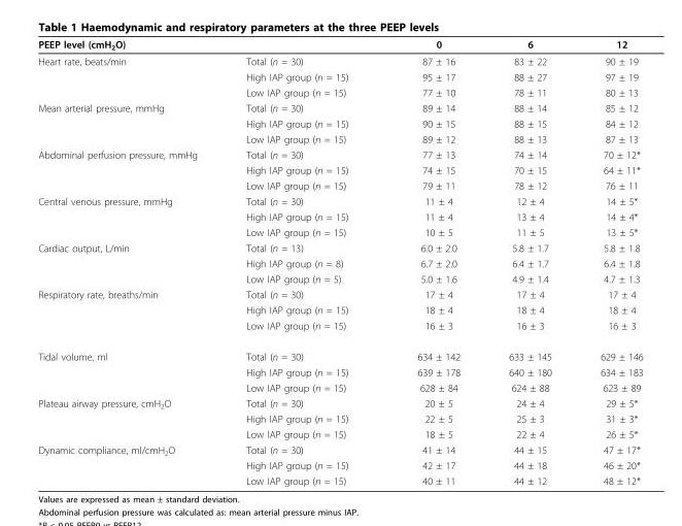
<table><thead><tr><td>PEEP level (cmH<sub>2</sub>O)</td><td></td><td>0</td><td>6</td><td>12</td></tr></thead><tbody><tr><td rowspan="3">Heart rate, beats/min</td><td>Total (n = 30)</td><td>87 ± 16</td><td>83 ± 22</td><td>90 ± 19</td></tr><tr><td>High IAP group (n = 15)</td><td>95 ± 17</td><td>88 ± 27</td><td>97 ± 19</td></tr><tr><td>Low IAP group (n = 15)</td><td>77 ± 10</td><td>78 ± 11</td><td>80 ± 13</td></tr><tr><td rowspan="3">Mean arterial pressure, mmHg</td><td>Total (n = 30)</td><td>89 ± 14</td><td>88 ± 14</td><td>85 ± 12</td></tr><tr><td>High IAP group (n = 15)</td><td>90 ± 15</td><td>88 ± 15</td><td>84 ± 12</td></tr><tr><td>Low IAP group (n = 15)</td><td>89 ± 12</td><td>88 ± 13</td><td>87 ± 13</td></tr><tr><td rowspan="3">Abdominal perfusion pressure, mmHg</td><td>Total (n = 30)</td><td>77 ± 13</td><td>74 ± 14</td><td>70 ± 12*</td></tr><tr><td>High IAP group (n = 15)</td><td>74 ± 15</td><td>70 ± 15</td><td>64 ± 11*</td></tr><tr><td>Low IAP group (n = 15)</td><td>79 ± 11</td><td>78 ± 12</td><td>76 ± 11</td></tr><tr><td rowspan="3">Central venous pressure, mmHg</td><td>Total (n = 30)</td><td>11 ± 4</td><td>12 ± 4</td><td>14 ± 5*</td></tr><tr><td>High IAP group (n = 15)</td><td>11 ± 4</td><td>13 ± 4</td><td>14 ± 4*</td></tr><tr><td>Low IAP group (n = 15)</td><td>10 ± 5</td><td>11 ± 5</td><td>13 ± 5*</td></tr><tr><td rowspan="3">Cardiac output, L/min</td><td>Total (n = 13)</td><td>6.0 ± 2.0</td><td>5.8 ± 1.7</td><td>5.8 ± 1.8</td></tr><tr><td>High IAP group (n = 8)</td><td>6.7 ± 2.0</td><td>6.4 ± 1.7</td><td>6.4 ± 1.8</td></tr><tr><td>Low IAP group (n = 5)</td><td>5.0 ± 1.6</td><td>4.9 ± 1.4</td><td>4.7 ± 1.3</td></tr><tr><td rowspan="3">Respiratory rate, breaths/min</td><td>Total (n = 30)</td><td>17 ± 4</td><td>17 ± 4</td><td>17 ± 4</td></tr><tr><td>High IAP group (n = 15)</td><td>18 ± 4</td><td>18 ± 4</td><td>18 ± 4</td></tr><tr><td>Low IAP group (n = 15)</td><td>16 ± 3</td><td>16 ± 3</td><td>16 ± 3</td></tr><tr><td rowspan="3">Tidal volume, ml</td><td>Total (n = 30)</td><td>634 ± 142</td><td>633 ± 145</td><td>629 ± 146</td></tr><tr><td>High IAP group (n = 15)</td><td>639 ± 178</td><td>640 ± 180</td><td>634 ± 183</td></tr><tr><td>Low IAP group (n = 15)</td><td>628 ± 84</td><td>624 ± 88</td><td>623 ± 89</td></tr><tr><td rowspan="3">Plateau airway pressure, cmH<sub>2</sub>O</td><td>Total (n = 30)</td><td>20 ± 5</td><td>24 ± 4</td><td>29 ± 5*</td></tr><tr><td>High IAP group (n = 15)</td><td>22 ± 5</td><td>25 ± 3</td><td>31 ± 3*</td></tr><tr><td>Low IAP group (n = 15)</td><td>18 ± 5</td><td>22 ± 4</td><td>26 ± 5*</td></tr><tr><td rowspan="3">Dynamic compliance, ml/cmH<sub>2</sub>O</td><td>Total (n = 30)</td><td>41 ± 14</td><td>44 ± 15</td><td>47 ± 17*</td></tr><tr><td>High IAP group (n = 15)</td><td>42 ± 17</td><td>44 ± 18</td><td>46 ± 20*</td></tr><tr><td>Low IAP group (n = 15)</td><td>40 ± 11</td><td>44 ± 12</td><td>48 ± 12*</td></tr></tbody></table>